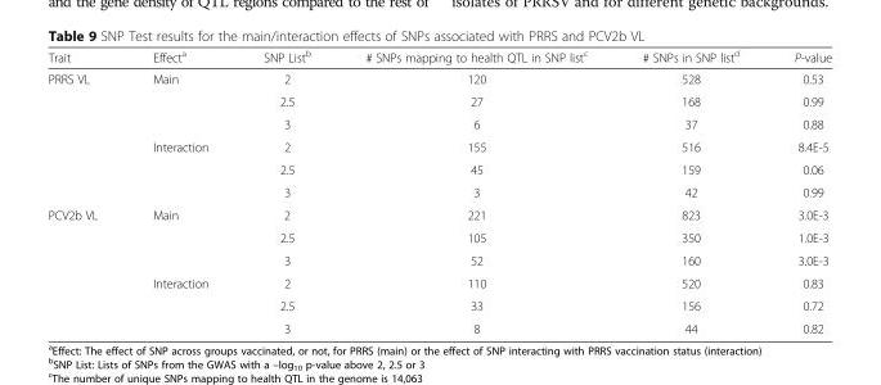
<table><thead><tr><td>Trait</td><td>Effect<sup>a</sup></td><td>SNP List<sup>b</sup></td><td># SNPs mapping to health QTL in SNP list<sup>c</sup></td><td># SNPs in SNP list<sup>d</sup></td><td>P-value</td></tr></thead><tbody><tr><td rowspan="6">PRRS VL</td><td rowspan="3">Main</td><td>2</td><td>120</td><td>528</td><td>0.53</td></tr><tr><td>2.5</td><td>27</td><td>168</td><td>0.99</td></tr><tr><td>3</td><td>6</td><td>37</td><td>0.88</td></tr><tr><td rowspan="3">Interaction</td><td>2</td><td>155</td><td>516</td><td>8.4E-5</td></tr><tr><td>2.5</td><td>45</td><td>159</td><td>0.06</td></tr><tr><td>3</td><td>3</td><td>42</td><td>0.99</td></tr><tr><td rowspan="6">PCV2b VL</td><td rowspan="3">Main</td><td>2</td><td>221</td><td>823</td><td>3.0E-3</td></tr><tr><td>2.5</td><td>105</td><td>350</td><td>1.0E-3</td></tr><tr><td>3</td><td>52</td><td>160</td><td>3.0E-3</td></tr><tr><td rowspan="3">Interaction</td><td>2</td><td>110</td><td>520</td><td>0.83</td></tr><tr><td>2.5</td><td>33</td><td>156</td><td>0.72</td></tr><tr><td>3</td><td>8</td><td>44</td><td>0.82</td></tr></tbody></table>